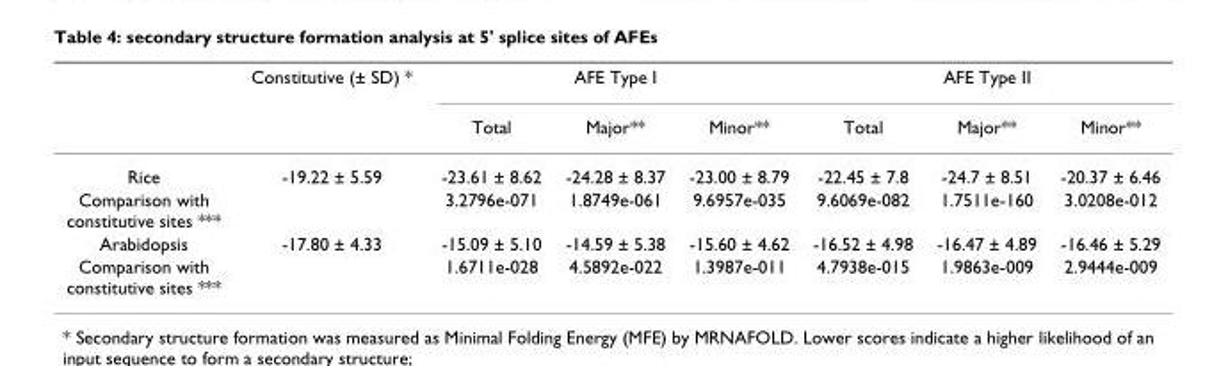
<table><thead><tr><td rowspan="2"></td><td rowspan="2">Constitutive (± SD) *</td><td colspan="3">AFE Type I</td><td colspan="3">AFE Type II</td></tr><tr><td>Total</td><td>Major**</td><td>Minor**</td><td>Total</td><td>Major**</td><td>Minor**</td></tr></thead><tbody><tr><td>Rice</td><td>-19.22 ± 5.59</td><td>-23.61 ± 8.62</td><td>-24.28 ± 8.37</td><td>-23.00 ± 8.79</td><td>-22.45 ± 7.8</td><td>-24.7 ± 8.51</td><td>-20.37 ± 6.46</td></tr><tr><td>Comparison with constitutive sites ***</td><td></td><td>3.2796e-071</td><td>1.8749e-061</td><td>9.6957e-035</td><td>9.6069e-082</td><td>1.7511e-160</td><td>3.0208e-012</td></tr><tr><td>Arabidopsis</td><td>-17.80 ± 4.33</td><td>-15.09 ± 5.10</td><td>-14.59 ± 5.38</td><td>-15.60 ± 4.62</td><td>-16.52 ± 4.98</td><td>-16.47 ± 4.89</td><td>-16.46 ± 5.29</td></tr><tr><td>Comparison with constitutive sites ***</td><td></td><td>1.6711e-028</td><td>4.5892e-022</td><td>1.3987e-011</td><td>4.7938e-015</td><td>1.9863e-009</td><td>2.9444e-009</td></tr></tbody></table>